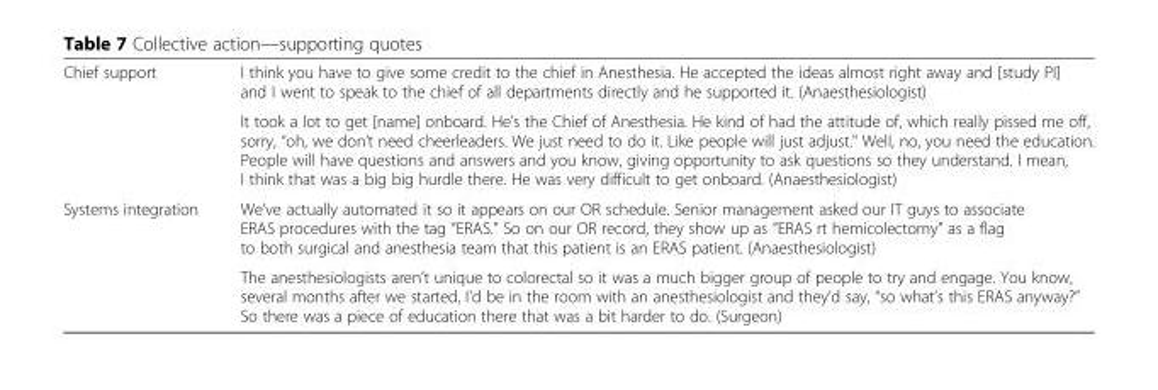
<table><tbody><tr><td rowspan="2">Chief support</td><td>I think you have to give some credit to the chief in Anesthesia. He accepted the ideas almost right away and [study PI] and I went to speak to the chief of all departments directly and he supported it. (Anaesthesiologist)</td></tr><tr><td>It took a lot to get [name] onboard. He’s the Chief of Anesthesia. He kind of had the attitude of, which really pissed me off, sorry, “oh, we don’t need cheerleaders. We just need to do it. Like people will just adjust.&quot; Well, no, you need the education. People will have questions and answers and you know, giving opportunity to ask questions so they understand. I mean, I think that was a big big hurdle there. He was very difficult to get onboard. (Anaesthesiologist)</td></tr><tr><td rowspan="2">Systems integration</td><td>We’ve actually automated it so it appears on our OR schedule. Senior management asked our IT guys to associate ERAS procedures with the tag “ERAS.” So on our OR record, they show up as “ERAS rt hemicolectomy” as a flag to both surgical and anesthesia team that this patient is an ERAS patient. (Anaesthesiologist)</td></tr><tr><td>The anesthesiologists aren’t unique to colorectal so it was a much bigger group of people to try and engage. You know, several months after we started, I&#x27;d be in the room with an anesthesiologist and they’d say, “so what’s this ERAS anyway?” So there was a piece of education there that was a bit harder to do. (Surgeon)</td></tr></tbody></table>